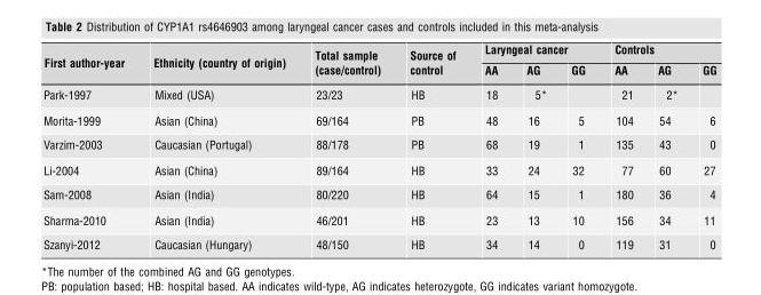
<table><thead><tr><td rowspan="2">First author-year</td><td rowspan="2">Ethnicity (country of origin)</td><td rowspan="2">Total sample (case/control)</td><td rowspan="2">Source of control</td><td colspan="3">Laryngeal cancer</td><td colspan="3">Controls</td></tr><tr><td>AA</td><td>AG</td><td>GG</td><td>AA</td><td>AG</td><td>GG</td></tr></thead><tbody><tr><td>Park-1997</td><td>Mixed (USA)</td><td>23/23</td><td>HB</td><td>18</td><td>5*</td><td></td><td>21</td><td>2*</td><td></td></tr><tr><td>Morita-1999</td><td>Asian (China)</td><td>69/164</td><td>PB</td><td>48</td><td>16</td><td>5</td><td>104</td><td>54</td><td>6</td></tr><tr><td>Varzim-2003</td><td>Caucasian (Portugal)</td><td>88/178</td><td>PB</td><td>68</td><td>19</td><td>1</td><td>135</td><td>43</td><td>0</td></tr><tr><td>Li-2004</td><td>Asian (China)</td><td>89/164</td><td>HB</td><td>33</td><td>24</td><td>32</td><td>77</td><td>60</td><td>27</td></tr><tr><td>Sam-2008</td><td>Asian (India)</td><td>80/220</td><td>HB</td><td>64</td><td>15</td><td>1</td><td>180</td><td>36</td><td>4</td></tr><tr><td>Sharma-2010</td><td>Asian (India)</td><td>46/201</td><td>HB</td><td>23</td><td>13</td><td>10</td><td>156</td><td>34</td><td>11</td></tr><tr><td>Szanyi-2012</td><td>Caucasian (Hungary)</td><td>48/150</td><td>HB</td><td>34</td><td>14</td><td>0</td><td>119</td><td>31</td><td>0</td></tr></tbody></table>